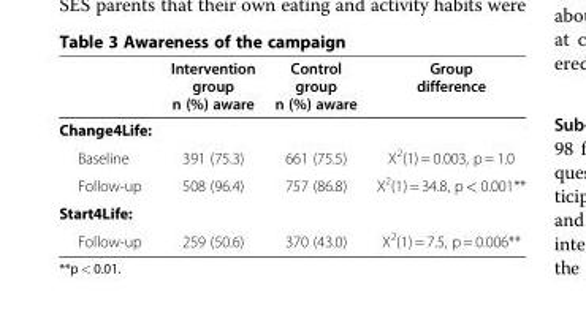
<table><thead><tr><td></td><td>Intervention group n (%) aware</td><td>Control group n (%) aware</td><td>Group difference</td></tr></thead><tbody><tr><td colspan="4">Change4Life:</td></tr><tr><td>Baseline</td><td>391 (75.3)</td><td>661 (75.5)</td><td>X<sup>2</sup>(1) = 0.003, p = 1.0</td></tr><tr><td>Follow-up</td><td>508 (96.4)</td><td>757 (86.8)</td><td>X<sup>2</sup>(1) = 34.8, p &lt; 0.001**</td></tr><tr><td colspan="4">Start4Life:</td></tr><tr><td>Follow-up</td><td>259 (50.6)</td><td>370 (43.0)</td><td>X<sup>2</sup>(1) = 7.5, p = 0.006**</td></tr></tbody></table>